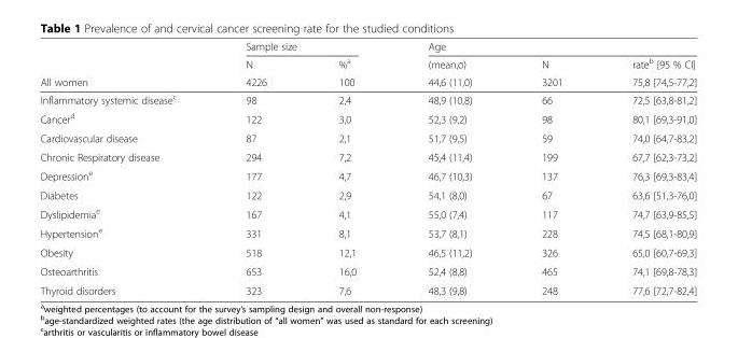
<table><thead><tr><td rowspan="3">All women</td><td colspan="2">Sample size</td><td rowspan="3">Age (mean,σ) 44,6 (11,0)</td><td rowspan="3">N 3201</td><td rowspan="3">rate<sup>b</sup> [95 % CI] 75,8 [74,5-77,2]</td></tr><tr><td rowspan="2">N 4226</td><td rowspan="2">%<sup>a</sup> 100</td></tr><tr></tr></thead><tbody><tr><td>Inflammatory systemic disease<sup>c</sup></td><td>98</td><td>2,4</td><td>48,9 (10,8)</td><td>66</td><td>72,5 [63,8-81,2]</td></tr><tr><td>Cancer<sup>d</sup></td><td>122</td><td>3,0</td><td>52,3 (9,2)</td><td>98</td><td>80,1 [69,3-91,0]</td></tr><tr><td>Cardiovascular disease</td><td>87</td><td>2,1</td><td>51,7 (9,5)</td><td>59</td><td>74,0 [64,7-83,2]</td></tr><tr><td>Chronic Respiratory disease</td><td>294</td><td>7,2</td><td>45,4 (11,4)</td><td>199</td><td>67,7 [62,3-73,2]</td></tr><tr><td>Depression<sup>e</sup></td><td>177</td><td>4,7</td><td>46,7 (10,3)</td><td>137</td><td>76,3 [69,3-83,4]</td></tr><tr><td>Diabetes</td><td>122</td><td>2,9</td><td>54,1 (8,0)</td><td>67</td><td>63,6 [51,3-76,0]</td></tr><tr><td>Dyslipidemia<sup>e</sup></td><td>167</td><td>4,1</td><td>55,0 (7,4)</td><td>117</td><td>74,7 [63,9-85,5]</td></tr><tr><td>Hypertension<sup>e</sup></td><td>331</td><td>8,1</td><td>53,7 (8,1)</td><td>228</td><td>74,5 [68,1-80,9]</td></tr><tr><td>Obesity</td><td>518</td><td>12,1</td><td>46,5 (11,2)</td><td>326</td><td>65,0 [60,7-69,3]</td></tr><tr><td>Osteoarthritis</td><td>653</td><td>16,0</td><td>52,4 (8,8)</td><td>465</td><td>74,1 [69,8-78,3]</td></tr><tr><td>Thyroid disorders</td><td>323</td><td>7,6</td><td>48,3 (9,8)</td><td>248</td><td>77,6 [72,7-82,4]</td></tr></tbody></table>